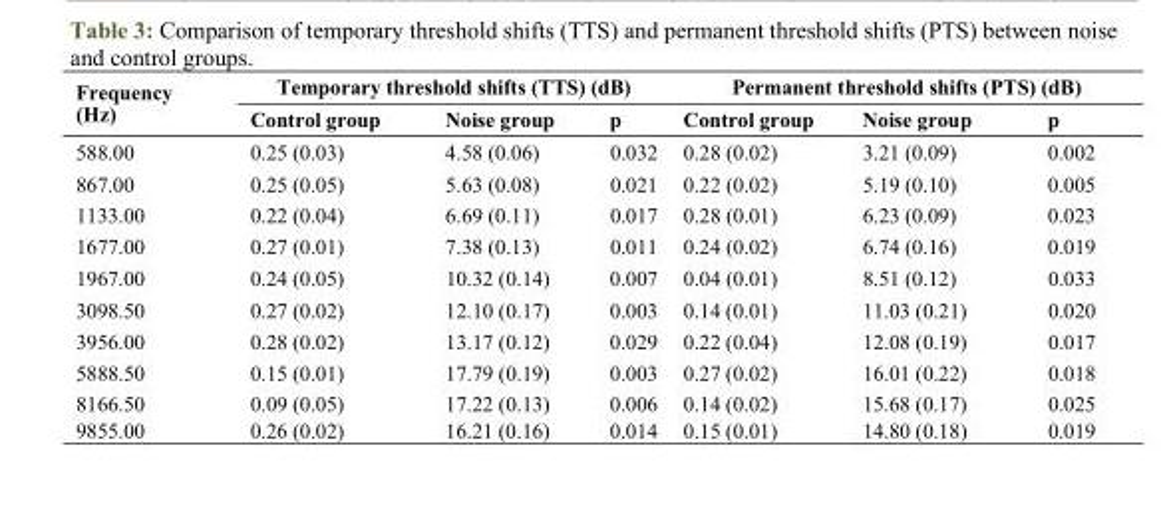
<table><thead><tr><td rowspan="2">Frequency (Hz)</td><td colspan="3">Temporary threshold shifts (TTS) (dB)</td><td colspan="3">Permanent threshold shifts (PTS) (dB)</td></tr><tr><td>Control group</td><td>Noise group</td><td>p</td><td>Control group</td><td>Noise group</td><td>p</td></tr></thead><tbody><tr><td>588.00</td><td>0.25 (0.03)</td><td>4.58 (0.06)</td><td>0.032</td><td>0.28 (0.02)</td><td>3.21 (0.09)</td><td>0.002</td></tr><tr><td>867.00</td><td>0.25 (0.05)</td><td>5.63 (0.08)</td><td>0.021</td><td>0.22 (0.02)</td><td>5.19 (0.10)</td><td>0.005</td></tr><tr><td>1133.00</td><td>0.22 (0.04)</td><td>6.69 (0.11)</td><td>0.017</td><td>0.28 (0.01)</td><td>6.23 (0.09)</td><td>0.023</td></tr><tr><td>1677.00</td><td>0.27 (0.01)</td><td>7.38 (0.13)</td><td>0.011</td><td>0.24 (0.02)</td><td>6.74 (0.16)</td><td>0.019</td></tr><tr><td>1967.00</td><td>0.24 (0.05)</td><td>10.32 (0.14)</td><td>0.007</td><td>0.04 (0.01)</td><td>8.51 (0.12)</td><td>0.033</td></tr><tr><td>3098.50</td><td>0.27 (0.02)</td><td>12.10 (0.17)</td><td>0.003</td><td>0.14 (0.01)</td><td>11.03 (0.21)</td><td>0.020</td></tr><tr><td>3956.00</td><td>0.28 (0.02)</td><td>13.17 (0.12)</td><td>0.029</td><td>0.22 (0.04)</td><td>12.08 (0.19)</td><td>0.017</td></tr><tr><td>5888.50</td><td>0.15 (0.01)</td><td>17.79 (0.19)</td><td>0.003</td><td>0.27 (0.02)</td><td>16.01 (0.22)</td><td>0.018</td></tr><tr><td>8166.50</td><td>0.09 (0.05)</td><td>17.22 (0.13)</td><td>0.006</td><td>0.14 (0.02)</td><td>15.68 (0.17)</td><td>0.025</td></tr><tr><td>9855.00</td><td>0.26 (0.02)</td><td>16.21 (0.16)</td><td>0.014</td><td>0.15 (0.01)</td><td>14.80 (0.18)</td><td>0.019</td></tr></tbody></table>